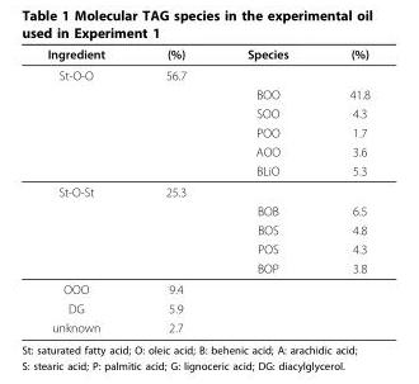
<table><thead><tr><td>Ingredient</td><td>(%)</td><td>Species</td><td>(%)</td></tr></thead><tbody><tr><td rowspan="6">St-O-O</td><td>56.7</td><td></td><td></td></tr><tr><td></td><td>BOO</td><td>41.8</td></tr><tr><td></td><td>SOO</td><td>4.3</td></tr><tr><td></td><td>POO</td><td>1.7</td></tr><tr><td></td><td>AOO</td><td>3.6</td></tr><tr><td></td><td>BLiO</td><td>5.3</td></tr><tr><td rowspan="5">St-O-St</td><td>25.3</td><td></td><td></td></tr><tr><td></td><td>BOB</td><td>6.5</td></tr><tr><td></td><td>BOS</td><td>4.8</td></tr><tr><td></td><td>POS</td><td>4.3</td></tr><tr><td></td><td>BOP</td><td>3.8</td></tr><tr><td>OOO</td><td>9.4</td><td></td><td></td></tr><tr><td>DG</td><td>5.9</td><td></td><td></td></tr><tr><td>unknown</td><td>2.7</td><td></td><td></td></tr></tbody></table>